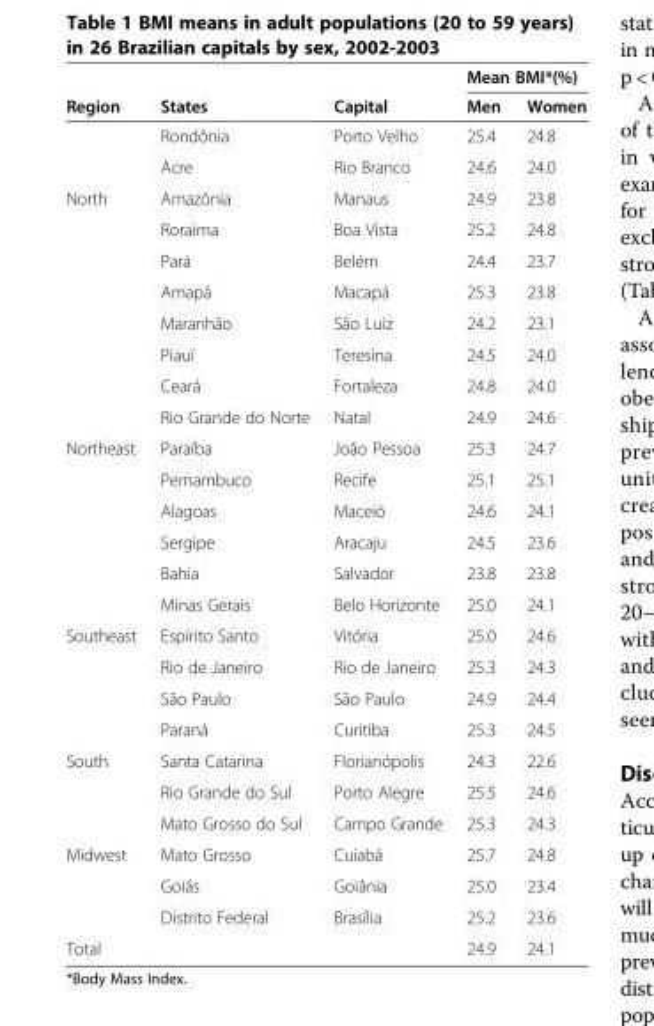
<table><thead><tr><td rowspan="2">Region</td><td rowspan="2">States</td><td rowspan="2">Capital</td><td colspan="2">Mean BMI*(%)</td></tr><tr><td>Men</td><td>Women</td></tr></thead><tbody><tr><td></td><td>Rondônia</td><td>Porto Velho</td><td>25.4</td><td>24.8</td></tr><tr><td></td><td>Acre</td><td>Rio Branco</td><td>24.6</td><td>24.0</td></tr><tr><td rowspan="8">North</td><td>Amazônia</td><td>Manaus</td><td>24.9</td><td>23.8</td></tr><tr><td>Roraima</td><td>Boa Vista</td><td>25.2</td><td>24.8</td></tr><tr><td>Pará</td><td>Belém</td><td>24.4</td><td>23.7</td></tr><tr><td>Amapá</td><td>Macapá</td><td>25.3</td><td>23.8</td></tr><tr><td>Maranhão</td><td>São Luiz</td><td>24.2</td><td>23.1</td></tr><tr><td>Piauí</td><td>Teresina</td><td>24.5</td><td>24.0</td></tr><tr><td>Ceará</td><td>Fortaleza</td><td>24.8</td><td>24.0</td></tr><tr><td>Rio Grande do Norte</td><td>Natal</td><td>24.9</td><td>24.6</td></tr><tr><td rowspan="6">Northeast</td><td>Paraíba</td><td>João Pessoa</td><td>25.3</td><td>24.7</td></tr><tr><td>Pernambuco</td><td>Recife</td><td>25.1</td><td>25.1</td></tr><tr><td>Alagoas</td><td>Maceió</td><td>24.6</td><td>24.1</td></tr><tr><td>Sergipe</td><td>Aracaju</td><td>24.5</td><td>23.6</td></tr><tr><td>Bahia</td><td>Salvador</td><td>23.8</td><td>23.8</td></tr><tr><td>Minas Gerais</td><td>Belo Horizonte</td><td>25.0</td><td>24.1</td></tr><tr><td rowspan="4">Southeast</td><td>Espírito Santo</td><td>Vitória</td><td>25.0</td><td>24.6</td></tr><tr><td>Rio de Janeiro</td><td>Rio de Janeiro</td><td>25.3</td><td>24.3</td></tr><tr><td>São Paulo</td><td>São Paulo</td><td>24.9</td><td>24.4</td></tr><tr><td>Paraná</td><td>Curitiba</td><td>25.3</td><td>24.5</td></tr><tr><td rowspan="3">South</td><td>Santa Catarina</td><td>Florianópolis</td><td>24.3</td><td>22.6</td></tr><tr><td>Rio Grande do Sul</td><td>Porto Alegre</td><td>25.5</td><td>24.6</td></tr><tr><td>Mato Grosso do Sul</td><td>Campo Grande</td><td>25.3</td><td>24.3</td></tr><tr><td rowspan="3">Midwest</td><td>Mato Grosso</td><td>Cuiabá</td><td>25.7</td><td>24.8</td></tr><tr><td>Goiás</td><td>Goiânia</td><td>25.0</td><td>23.4</td></tr><tr><td>Distrito Federal</td><td>Brasília</td><td>25.2</td><td>23.6</td></tr><tr><td>Total</td><td></td><td></td><td>24.9</td><td>24.1</td></tr></tbody></table>